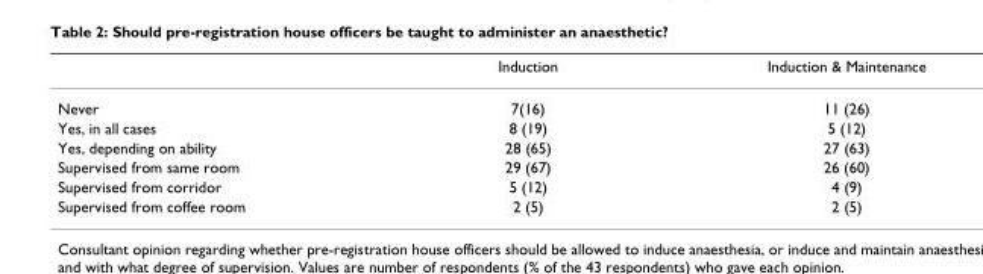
<table><thead><tr><td></td><td>Induction</td><td>Induction &amp; Maintenance</td></tr></thead><tbody><tr><td>Never</td><td>7(16)</td><td>11 (26)</td></tr><tr><td>Yes, in all cases</td><td>8 (19)</td><td>5 (12)</td></tr><tr><td>Yes, depending on ability</td><td>28 (65)</td><td>27 (63)</td></tr><tr><td>Supervised from same room</td><td>29 (67)</td><td>26 (60)</td></tr><tr><td>Supervised from corridor</td><td>5 (12)</td><td>4 (9)</td></tr><tr><td>Supervised from coffee room</td><td>2 (5)</td><td>2 (5)</td></tr></tbody></table>